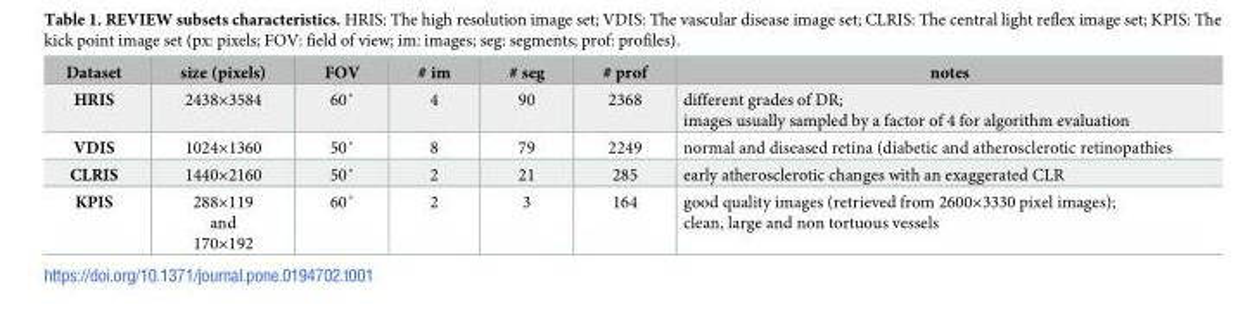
<table><thead><tr><td>Dataset</td><td>size (pixels)</td><td>FOV</td><td># im</td><td># seg</td><td># prof</td><td>notes</td></tr></thead><tbody><tr><td>HRIS</td><td>2438×3584</td><td>60˚</td><td>4</td><td>90</td><td>2368</td><td>different grades of DR; images usually sampled by a factor of 4 for algorithm evaluation</td></tr><tr><td>VDIS</td><td>1024×1360</td><td>50˚</td><td>8</td><td>79</td><td>2249</td><td>normal and diseased retina (diabetic and atherosclerotic retinopathies</td></tr><tr><td>CLRIS</td><td>1440×2160</td><td>50˚</td><td>2</td><td>21</td><td>285</td><td>early atherosclerotic changes with an exaggerated CLR</td></tr><tr><td>KPIS</td><td>288×119 and 170×192</td><td>60˚</td><td>2</td><td>3</td><td>164</td><td>good quality images (retrieved from 2600×3330 pixel images); clean, large and non tortuous vessels</td></tr></tbody></table>